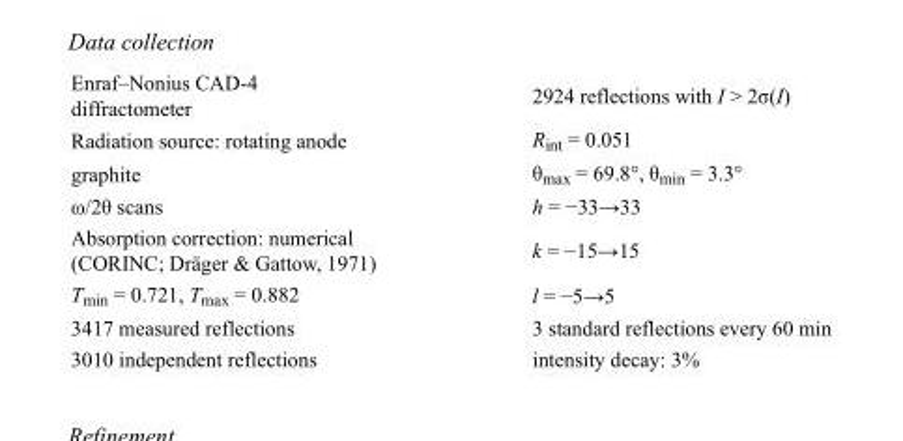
<table><tbody><tr><td>Enraf–Nonius CAD-4 diffractometer</td><td>2924 reflections with I &gt; 2σ(I)</td></tr><tr><td>Radiation source: rotating anode</td><td>R<sub>int</sub> = 0.051</td></tr><tr><td>graphite</td><td>θ<sub>max</sub> = 69.8°, θ<sub>min</sub> = 3.3°</td></tr><tr><td>ω/2θ scans</td><td>h = −33→33</td></tr><tr><td>Absorption correction: numerical (CORINC; Dräger &amp; Gattow, 1971)</td><td>k = −15→15</td></tr><tr><td>T<sub>min</sub> = 0.721, T<sub>max</sub> = 0.882</td><td>l = −5→5</td></tr><tr><td>3417 measured reflections</td><td>3 standard reflections every 60 min</td></tr><tr><td>3010 independent reflections</td><td>intensity decay: 3%</td></tr></tbody></table>